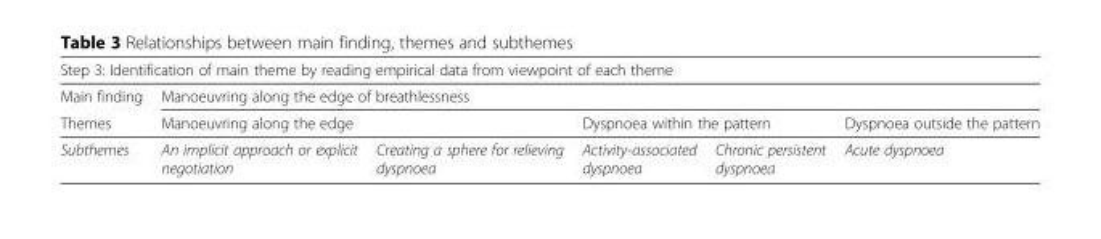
<table><thead><tr><td colspan="6">Step 3: Identification of main theme by reading empirical data from viewpoint of each theme</td></tr><tr><td rowspan="3">Main finding Themes Subthemes</td><td colspan="5">Manoeuvring along the edge of breathlessness</td></tr><tr><td colspan="2">Manoeuvring along the edge</td><td colspan="2">Dyspnoea within the pattern</td><td rowspan="2">Dyspnoea outside the pattern Acute dyspnoea</td></tr><tr><td>An implicit approach or explicit negotiation</td><td>Creating a sphere for relieving dyspnoea</td><td>Activity-associated dyspnoea</td><td>Chronic persistent dyspnoea</td></tr></thead><tbody></tbody></table>